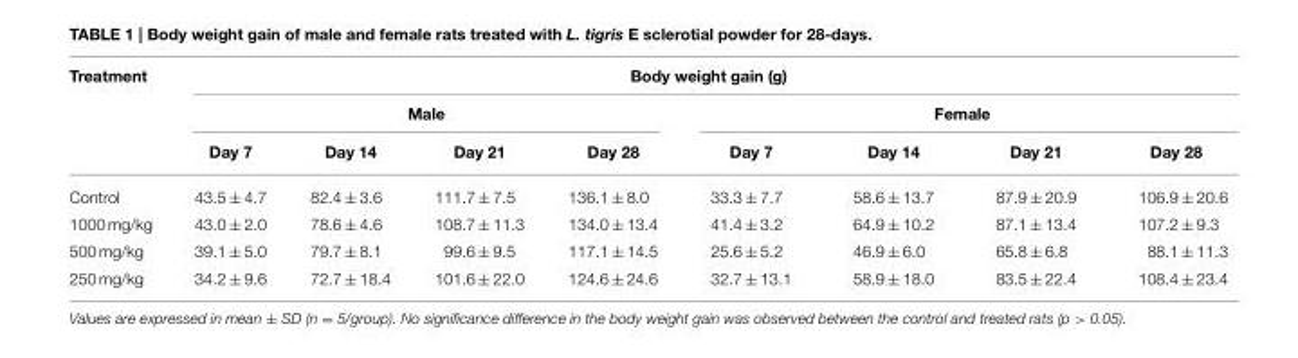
<table><thead><tr><td rowspan="3">Treatment</td><td colspan="8">Body weight gain (g)</td></tr><tr><td colspan="4">Male</td><td colspan="4">Female</td></tr><tr><td>Day 7</td><td>Day 14</td><td>Day 21</td><td>Day 28</td><td>Day 7</td><td>Day 14</td><td>Day 21</td><td>Day 28</td></tr></thead><tbody><tr><td>Control</td><td>43.5 ± 4.7</td><td>82.4 ± 3.6</td><td>111.7 ± 7.5</td><td>136.1 ± 8.0</td><td>33.3 ± 7.7</td><td>58.6 ± 13.7</td><td>87.9 ± 20.9</td><td>106.9 ± 20.6</td></tr><tr><td>1000 mg/kg</td><td>43.0 ± 2.0</td><td>78.6 ± 4.6</td><td>108.7 ± 11.3</td><td>134.0 ± 13.4</td><td>41.4 ± 3.2</td><td>64.9 ± 10.2</td><td>87.1 ± 13.4</td><td>107.2 ± 9.3</td></tr><tr><td>500 mg/kg</td><td>39.1 ± 5.0</td><td>79.7 ± 8.1</td><td>99.6 ± 9.5</td><td>117.1 ± 14.5</td><td>25.6 ± 5.2</td><td>46.9 ± 6.0</td><td>65.8 ± 6.8</td><td>88.1 ± 11.3</td></tr><tr><td>250 mg/kg</td><td>34.2 ± 9.6</td><td>72.7 ± 18.4</td><td>101.6 ± 22.0</td><td>124.6 ± 24.6</td><td>32.7 ± 13.1</td><td>58.9 ± 18.0</td><td>83.5 ± 22.4</td><td>108.4 ± 23.4</td></tr></tbody></table>